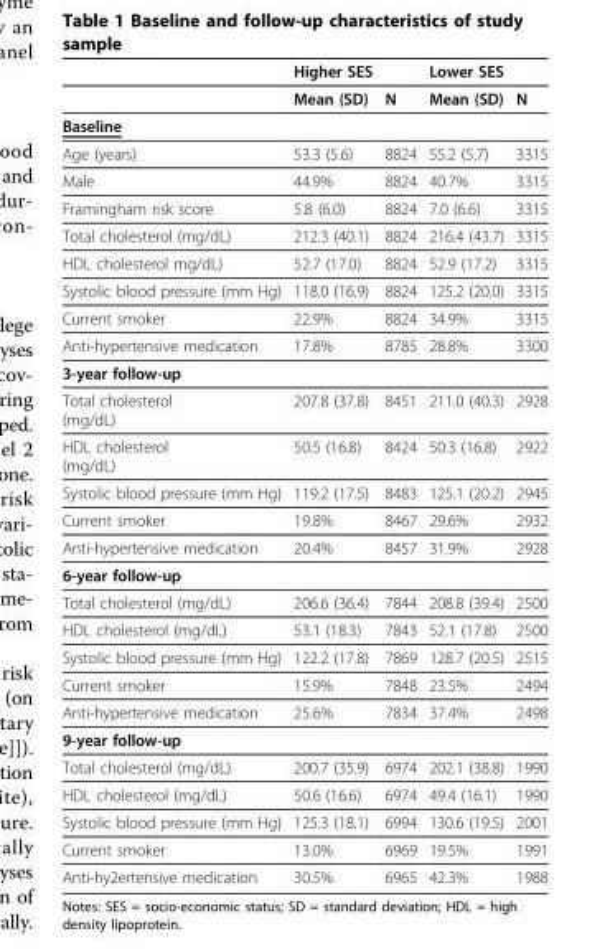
<table><thead><tr><td></td><td>Higher SES</td><td></td><td>Lower SES</td><td></td></tr></thead><tbody><tr><td></td><td>Mean (SD)</td><td>N</td><td>Mean (SD)</td><td>N</td></tr><tr><td colspan="5">Baseline</td></tr><tr><td>Age (years)</td><td>53.3 (5.6)</td><td>8824</td><td>55.2 (5.7)</td><td>3315</td></tr><tr><td>Male</td><td>44.9%</td><td>8824</td><td>40.7%</td><td>3315</td></tr><tr><td>Framingham risk score</td><td>5.8 (6.0)</td><td>8824</td><td>7.0 (6.6)</td><td>3315</td></tr><tr><td>Total cholesterol (mg/dL)</td><td>212.3 (40.1)</td><td>8824</td><td>216.4 (43.7)</td><td>3315</td></tr><tr><td>HDL cholesterol mg/dL)</td><td>52.7 (17.0)</td><td>8824</td><td>52.9 (17.2)</td><td>3315</td></tr><tr><td>Systolic blood pressure (mm Hg)</td><td>118.0 (16.9)</td><td>8824</td><td>125.2 (20.0)</td><td>3315</td></tr><tr><td>Current smoker</td><td>22.9%</td><td>8824</td><td>34.9%</td><td>3315</td></tr><tr><td>Anti-hypertensive medication</td><td>17.8%</td><td>8785</td><td>28.8%</td><td>3300</td></tr><tr><td colspan="5">3-year follow-up</td></tr><tr><td>Total cholesterol (mg/dL)</td><td>207.8 (37.8)</td><td>8451</td><td>211.0 (40.3)</td><td>2928</td></tr><tr><td>HDL cholesterol (mg/dL)</td><td>50.5 (16.8)</td><td>8424</td><td>50.3 (16.8)</td><td>2922</td></tr><tr><td>Systolic blood pressure (mm Hg)</td><td>119.2 (17.5)</td><td>8483</td><td>125.1 (20.2)</td><td>2945</td></tr><tr><td>Current smoker</td><td>19.8%</td><td>8467</td><td>29.6%</td><td>2932</td></tr><tr><td>Anti-hypertensive medication</td><td>20.4%</td><td>8457</td><td>31.9%</td><td>2928</td></tr><tr><td colspan="5">6-year follow-up</td></tr><tr><td>Total cholesterol (mg/dL)</td><td>206.6 (36.4)</td><td>7844</td><td>208.8 (39.4)</td><td>2500</td></tr><tr><td>HDL cholesterol (mg/dL)</td><td>53.1 (18.3)</td><td>7843</td><td>52.1 (17.8)</td><td>2500</td></tr><tr><td>Systolic blood pressure (mm Hg)</td><td>122.2 (17.8)</td><td>7869</td><td>128.7 (20.5)</td><td>2515</td></tr><tr><td>Current smoker</td><td>15.9%</td><td>7848</td><td>23.5%</td><td>2494</td></tr><tr><td>Anti-hypertensive medication</td><td>25.6%</td><td>7834</td><td>37.4%</td><td>2498</td></tr><tr><td colspan="5">9-year follow-up</td></tr><tr><td>Total cholesterol (mg/dL)</td><td>200.7 (35.9)</td><td>6974</td><td>202.1 (38.8)</td><td>1990</td></tr><tr><td>HDL cholesterol (mg/dL)</td><td>50.6 (16.6)</td><td>6974</td><td>49.4 (16.1)</td><td>1990</td></tr><tr><td>Systolic blood pressure (mm Hg)</td><td>125.3 (18.1)</td><td>6994</td><td>130.6 (19.5)</td><td>2001</td></tr><tr><td>Current smoker</td><td>13.0%</td><td>6969</td><td>19.5%</td><td>1991</td></tr><tr><td>Anti-hy2ertensive medication</td><td>30.5%</td><td>6965</td><td>42.3%</td><td>1988</td></tr></tbody></table>